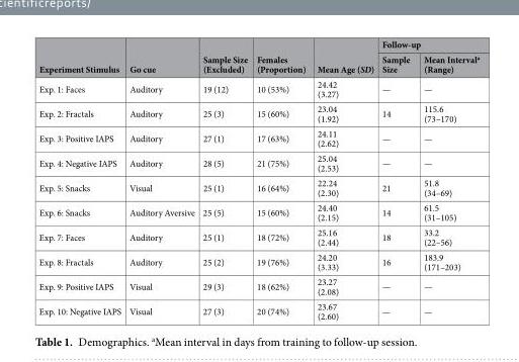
<table><thead><tr><td rowspan="2">Experiment Stimulus</td><td rowspan="2">Go cue</td><td rowspan="2">Sample Size (Excluded)</td><td rowspan="2">Females (Proportion)</td><td rowspan="2">Mean Age (SD)</td><td colspan="2">Follow-up</td></tr><tr><td>Sample Size</td><td>Mean Interval<sup>a</sup> (Range)</td></tr></thead><tbody><tr><td>Exp. 1: Faces</td><td>Auditory</td><td>19 (12)</td><td>10 (53%)</td><td>24.42 (3.27)</td><td>—</td><td>—</td></tr><tr><td>Exp. 2: Fractals</td><td>Auditory</td><td>25 (3)</td><td>15 (60%)</td><td>23.04 (1.92)</td><td>14</td><td>115.6 (73–170)</td></tr><tr><td>Exp. 3: Positive IAPS</td><td>Auditory</td><td>27 (1)</td><td>17 (63%)</td><td>24.11 (2.62)</td><td>—</td><td>—</td></tr><tr><td>Exp. 4: Negative IAPS</td><td>Auditory</td><td>28 (5)</td><td>21 (75%)</td><td>25.04 (2.53)</td><td>—</td><td>—</td></tr><tr><td>Exp. 5: Snacks</td><td>Visual</td><td>25 (1)</td><td>16 (64%)</td><td>22.24 (2.30)</td><td>21</td><td>51.8 (34–69)</td></tr><tr><td>Exp. 6: Snacks</td><td>Auditory Aversive</td><td>25 (5)</td><td>15 (60%)</td><td>24.40 (2.15)</td><td>14</td><td>61.5 (31–105)</td></tr><tr><td>Exp. 7: Faces</td><td>Auditory</td><td>25 (1)</td><td>18 (72%)</td><td>25.16 (2.44)</td><td>18</td><td>33.2 (22–56)</td></tr><tr><td>Exp. 8: Fractals</td><td>Auditory</td><td>25 (2)</td><td>19 (76%)</td><td>24.20 (3.33)</td><td>16</td><td>183.9 (171–203)</td></tr><tr><td>Exp. 9: Positive IAPS</td><td>Visual</td><td>29 (3)</td><td>18 (62%)</td><td>23.27 (2.08)</td><td>—</td><td>—</td></tr><tr><td>Exp. 10: Negative IAPS</td><td>Visual</td><td>27 (3)</td><td>20 (74%)</td><td>23.67 (2.60)</td><td>—</td><td>—</td></tr></tbody></table>